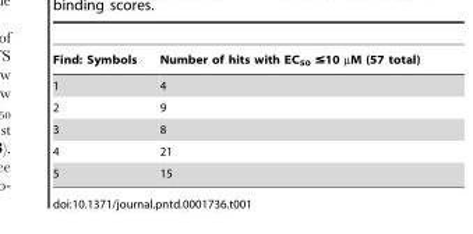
<table><thead><tr><td>Find: Symbols</td><td>Number of hits with EC<sub>50</sub> ≤10 µM (57 total)</td></tr></thead><tbody><tr><td>1</td><td>4</td></tr><tr><td>2</td><td>9</td></tr><tr><td>3</td><td>8</td></tr><tr><td>4</td><td>21</td></tr><tr><td>5</td><td>15</td></tr></tbody></table>